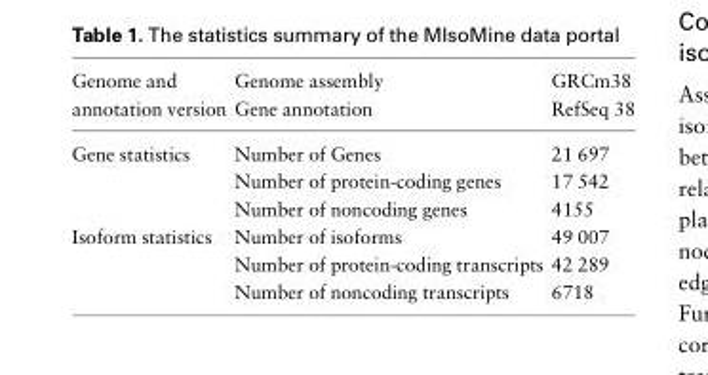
<table><thead><tr><td>Genome and annotation version</td><td>Genome assembly Gene annotation</td><td>GRCm38 RefSeq 38</td></tr></thead><tbody><tr><td rowspan="3">Gene statistics</td><td>Number of Genes</td><td>21 697</td></tr><tr><td>Number of protein-coding genes</td><td>17 542</td></tr><tr><td>Number of noncoding genes</td><td>4155</td></tr><tr><td rowspan="3">Isoform statistics</td><td>Number of isoforms</td><td>49 007</td></tr><tr><td>Number of protein-coding transcripts</td><td>42 289</td></tr><tr><td>Number of noncoding transcripts</td><td>6718</td></tr></tbody></table>